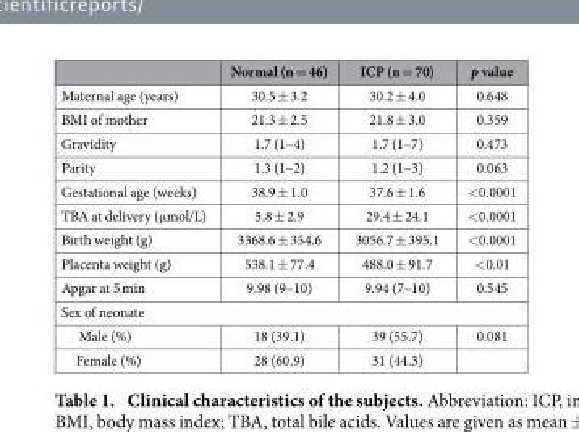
<table><thead><tr><td></td><td>Normal (n = 46)</td><td>ICP (n = 70)</td><td>p value</td></tr></thead><tbody><tr><td>Maternal age (years)</td><td>30.5 ± 3.2</td><td>30.2 ± 4.0</td><td>0.648</td></tr><tr><td>BMI of mother</td><td>21.3 ± 2.5</td><td>21.8 ± 3.0</td><td>0.359</td></tr><tr><td>Gravidity</td><td>1.7 (1–4)</td><td>1.7 (1–7)</td><td>0.473</td></tr><tr><td>Parity</td><td>1.3 (1–2)</td><td>1.2 (1–3)</td><td>0.063</td></tr><tr><td>Gestational age (weeks)</td><td>38.9 ± 1.0</td><td>37.6 ± 1.6</td><td>&lt; 0.0001</td></tr><tr><td>TBA at delivery (μ mol/L)</td><td>5.8 ± 2.9</td><td>29.4 ± 24.1</td><td>&lt; 0.0001</td></tr><tr><td>Birth weight (g)</td><td>3368.6 ± 354.6</td><td>3056.7 ± 395.1</td><td>&lt; 0.0001</td></tr><tr><td>Placenta weight (g)</td><td>538.1 ± 77.4</td><td>488.0 ± 91.7</td><td>&lt; 0.01</td></tr><tr><td>Apgar at 5 min</td><td>9.98 (9–10)</td><td>9.94 (7–10)</td><td>0.545</td></tr><tr><td colspan="4">Sex of neonate</td></tr><tr><td>Male (%)</td><td>18 (39.1)</td><td>39 (55.7)</td><td>0.081</td></tr><tr><td>Female (%)</td><td>28 (60.9)</td><td>31 (44.3)</td><td></td></tr></tbody></table>